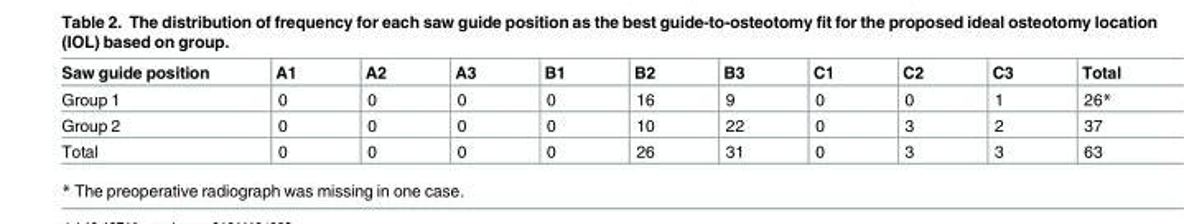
<table><thead><tr><td>Saw guide position</td><td>A1</td><td>A2</td><td>A3</td><td>B1</td><td>B2</td><td>B3</td><td>C1</td><td>C2</td><td>C3</td><td>Total</td></tr></thead><tbody><tr><td>Group 1</td><td>0</td><td>0</td><td>0</td><td>0</td><td>16</td><td>9</td><td>0</td><td>0</td><td>1</td><td>26*</td></tr><tr><td>Group 2</td><td>0</td><td>0</td><td>0</td><td>0</td><td>10</td><td>22</td><td>0</td><td>3</td><td>2</td><td>37</td></tr><tr><td>Total</td><td>0</td><td>0</td><td>0</td><td>0</td><td>26</td><td>31</td><td>0</td><td>3</td><td>3</td><td>63</td></tr></tbody></table>